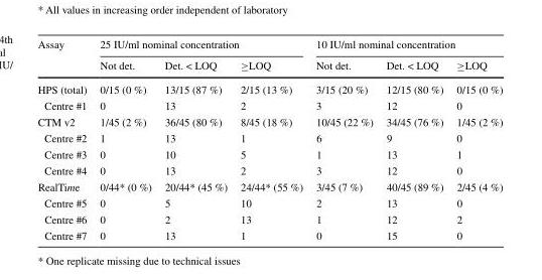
<table><thead><tr><td rowspan="2">Assay</td><td colspan="3">25 IU/ml nominal concentration</td><td colspan="3">10 IU/ml nominal concentration</td></tr><tr><td>Not det.</td><td>Det. &lt; LOQ</td><td>≥LOQ</td><td>Not det.</td><td>Det. &lt; LOQ</td><td>≥LOQ</td></tr></thead><tbody><tr><td>HPS (total)</td><td>0/15 (0 %)</td><td>13/15 (87 %)</td><td>2/15 (13 %)</td><td>3/15 (20 %)</td><td>12/15 (80 %)</td><td>0/15 (0 %)</td></tr><tr><td>Centre #1</td><td>0</td><td>13</td><td>2</td><td>3</td><td>12</td><td>0</td></tr><tr><td>CTM v2</td><td>1/45 (2 %)</td><td>36/45 (80 %)</td><td>8/45 (18 %)</td><td>10/45 (22 %)</td><td>34/45 (76 %)</td><td>1/45 (2 %)</td></tr><tr><td>Centre #2</td><td>1</td><td>13</td><td>1</td><td>6</td><td>9</td><td>0</td></tr><tr><td>Centre #3</td><td>0</td><td>10</td><td>5</td><td>1</td><td>13</td><td>1</td></tr><tr><td>Centre #4</td><td>0</td><td>13</td><td>2</td><td>3</td><td>12</td><td>0</td></tr><tr><td>RealTime</td><td>0/44* (0 %)</td><td>20/44* (45 %)</td><td>24/44* (55 %)</td><td>3/45 (7 %)</td><td>40/45 (89 %)</td><td>2/45 (4 %)</td></tr><tr><td>Centre #5</td><td>0</td><td>5</td><td>10</td><td>2</td><td>13</td><td>0</td></tr><tr><td>Centre #6</td><td>0</td><td>2</td><td>13</td><td>1</td><td>12</td><td>2</td></tr><tr><td>Centre #7</td><td>0</td><td>13</td><td>1</td><td>0</td><td>15</td><td>0</td></tr></tbody></table>